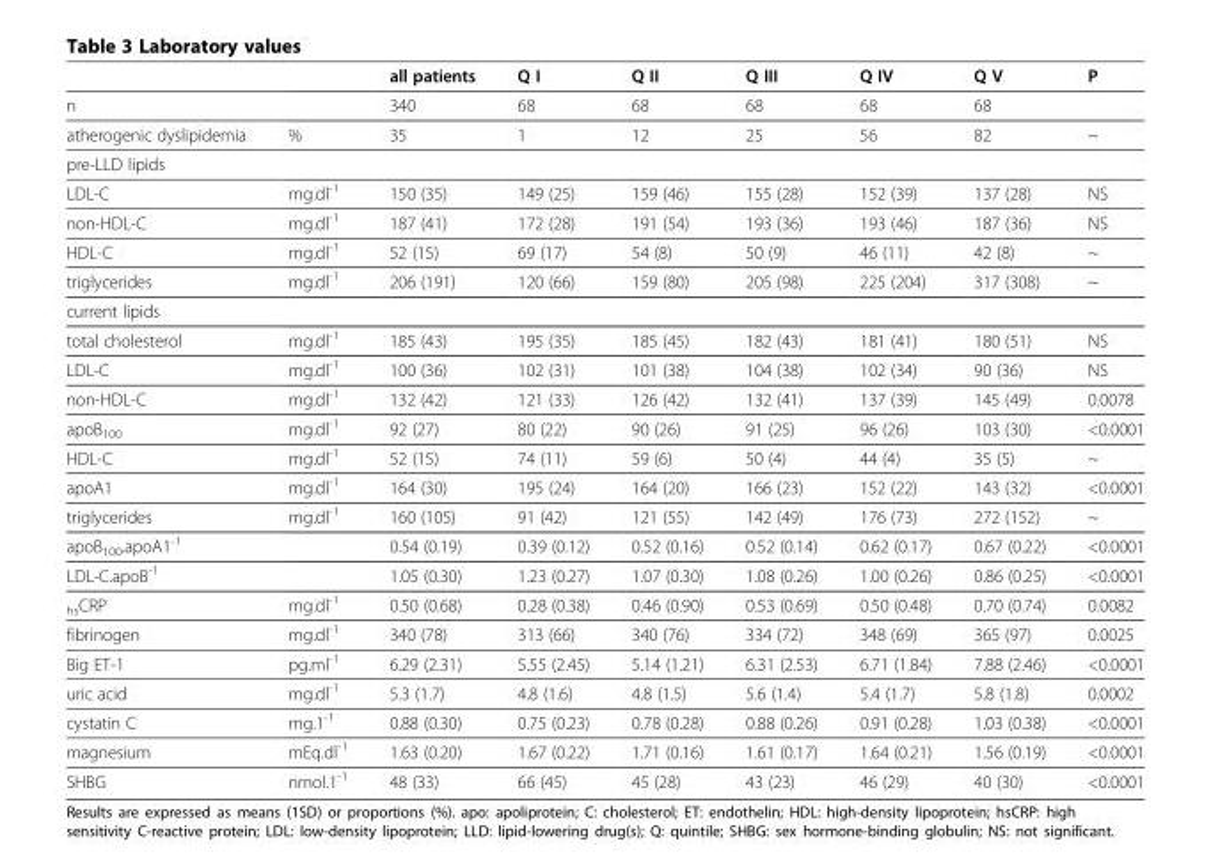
<table><thead><tr><td></td><td></td><td>all patients</td><td>Q I</td><td>Q II</td><td>Q III</td><td>Q IV</td><td>Q V</td><td>P</td></tr></thead><tbody><tr><td>n</td><td></td><td>340</td><td>68</td><td>68</td><td>68</td><td>68</td><td>68</td><td></td></tr><tr><td>atherogenic dyslipidemia</td><td>%</td><td>35</td><td>1</td><td>12</td><td>25</td><td>56</td><td>82</td><td>~</td></tr><tr><td colspan="9">pre-LLD lipids</td></tr><tr><td>LDL-C</td><td>mg.dl<sup>-1</sup></td><td>150 (35)</td><td>149 (25)</td><td>159 (46)</td><td>155 (28)</td><td>152 (39)</td><td>137 (28)</td><td>NS</td></tr><tr><td>non-HDL-C</td><td>mg.dl<sup>-1</sup></td><td>187 (41)</td><td>172 (28)</td><td>191 (54)</td><td>193 (36)</td><td>193 (46)</td><td>187 (36)</td><td>NS</td></tr><tr><td>HDL-C</td><td>mg.dl<sup>-1</sup></td><td>52 (15)</td><td>69 (17)</td><td>54 (8)</td><td>50 (9)</td><td>46 (11)</td><td>42 (8)</td><td>~</td></tr><tr><td>triglycerides</td><td>mg.dl<sup>-1</sup></td><td>206 (191)</td><td>120 (66)</td><td>159 (80)</td><td>205 (98)</td><td>225 (204)</td><td>317 (308)</td><td>~</td></tr><tr><td colspan="9">current lipids</td></tr><tr><td>total cholesterol</td><td>mg.dl<sup>-1</sup></td><td>185 (43)</td><td>195 (35)</td><td>185 (45)</td><td>182 (43)</td><td>181 (41)</td><td>180 (51)</td><td>NS</td></tr><tr><td>LDL-C</td><td>mg.dl<sup>-1</sup></td><td>100 (36)</td><td>102 (31)</td><td>101 (38)</td><td>104 (38)</td><td>102 (34)</td><td>90 (36)</td><td>NS</td></tr><tr><td>non-HDL-C</td><td>mg.dl<sup>-1</sup></td><td>132 (42)</td><td>121 (33)</td><td>126 (42)</td><td>132 (41)</td><td>137 (39)</td><td>145 (49)</td><td>0.0078</td></tr><tr><td>apoB<sub>100</sub></td><td>mg.dl<sup>-1</sup></td><td>92 (27)</td><td>80 (22)</td><td>90 (26)</td><td>91 (25)</td><td>96 (26)</td><td>103 (30)</td><td>&lt;0.0001</td></tr><tr><td>HDL-C</td><td>mg.dl<sup>-1</sup></td><td>52 (15)</td><td>74 (11)</td><td>59 (6)</td><td>50 (4)</td><td>44 (4)</td><td>35 (5)</td><td>~</td></tr><tr><td>apoA1</td><td>mg.dl<sup>-1</sup></td><td>164 (30)</td><td>195 (24)</td><td>164 (20)</td><td>166 (23)</td><td>152 (22)</td><td>143 (32)</td><td>&lt;0.0001</td></tr><tr><td>triglycerides</td><td>mg.dl<sup>-1</sup></td><td>160 (105)</td><td>91 (42)</td><td>121 (55)</td><td>142 (49)</td><td>176 (73)</td><td>272 (152)</td><td>~</td></tr><tr><td>apoB<sub>100</sub>.apoA1<sup>-1</sup></td><td></td><td>0.54 (0.19)</td><td>0.39 (0.12)</td><td>0.52 (0.16)</td><td>0.52 (0.14)</td><td>0.62 (0.17)</td><td>0.67 (0.22)</td><td>&lt;0.0001</td></tr><tr><td>LDL-C.apoB<sup>-1</sup></td><td></td><td>1.05 (0.30)</td><td>1.23 (0.27)</td><td>1.07 (0.30)</td><td>1.08 (0.26)</td><td>1.00 (0.26)</td><td>0.86 (0.25)</td><td>&lt;0.0001</td></tr><tr><td><sub>hs</sub>CRP</td><td>mg.dl<sup>-1</sup></td><td>0.50 (0.68)</td><td>0.28 (0.38)</td><td>0.46 (0.90)</td><td>0.53 (0.69)</td><td>0.50 (0.48)</td><td>0.70 (0.74)</td><td>0.0082</td></tr><tr><td>fibrinogen</td><td>mg.dl<sup>-1</sup></td><td>340 (78)</td><td>313 (66)</td><td>340 (76)</td><td>334 (72)</td><td>348 (69)</td><td>365 (97)</td><td>0.0025</td></tr><tr><td>Big ET-1</td><td>pg.ml<sup>-1</sup></td><td>6.29 (2.31)</td><td>5.55 (2.45)</td><td>5.14 (1.21)</td><td>6.31 (2.53)</td><td>6.71 (1.84)</td><td>7.88 (2.46)</td><td>&lt;0.0001</td></tr><tr><td>uric acid</td><td>mg.dl<sup>-1</sup></td><td>5.3 (1.7)</td><td>4.8 (1.6)</td><td>4.8 (1.5)</td><td>5.6 (1.4)</td><td>5.4 (1.7)</td><td>5.8 (1.8)</td><td>0.0002</td></tr><tr><td>cystatin C</td><td>mg.1<sup>-1</sup></td><td>0.88 (0.30)</td><td>0.75 (0.23)</td><td>0.78 (0.28)</td><td>0.88 (0.26)</td><td>0.91 (0.28)</td><td>1.03 (0.38)</td><td>&lt;0.0001</td></tr><tr><td>magnesium</td><td>mEq.dl<sup>-1</sup></td><td>1.63 (0.20)</td><td>1.67 (0.22)</td><td>1.71 (0.16)</td><td>1.61 (0.17)</td><td>1.64 (0.21)</td><td>1.56 (0.19)</td><td>&lt;0.0001</td></tr><tr><td>SHBG</td><td>nmol.1<sup>-1</sup></td><td>48 (33)</td><td>66 (45)</td><td>45 (28)</td><td>43 (23)</td><td>46 (29)</td><td>40 (30)</td><td>&lt;0.0001</td></tr></tbody></table>